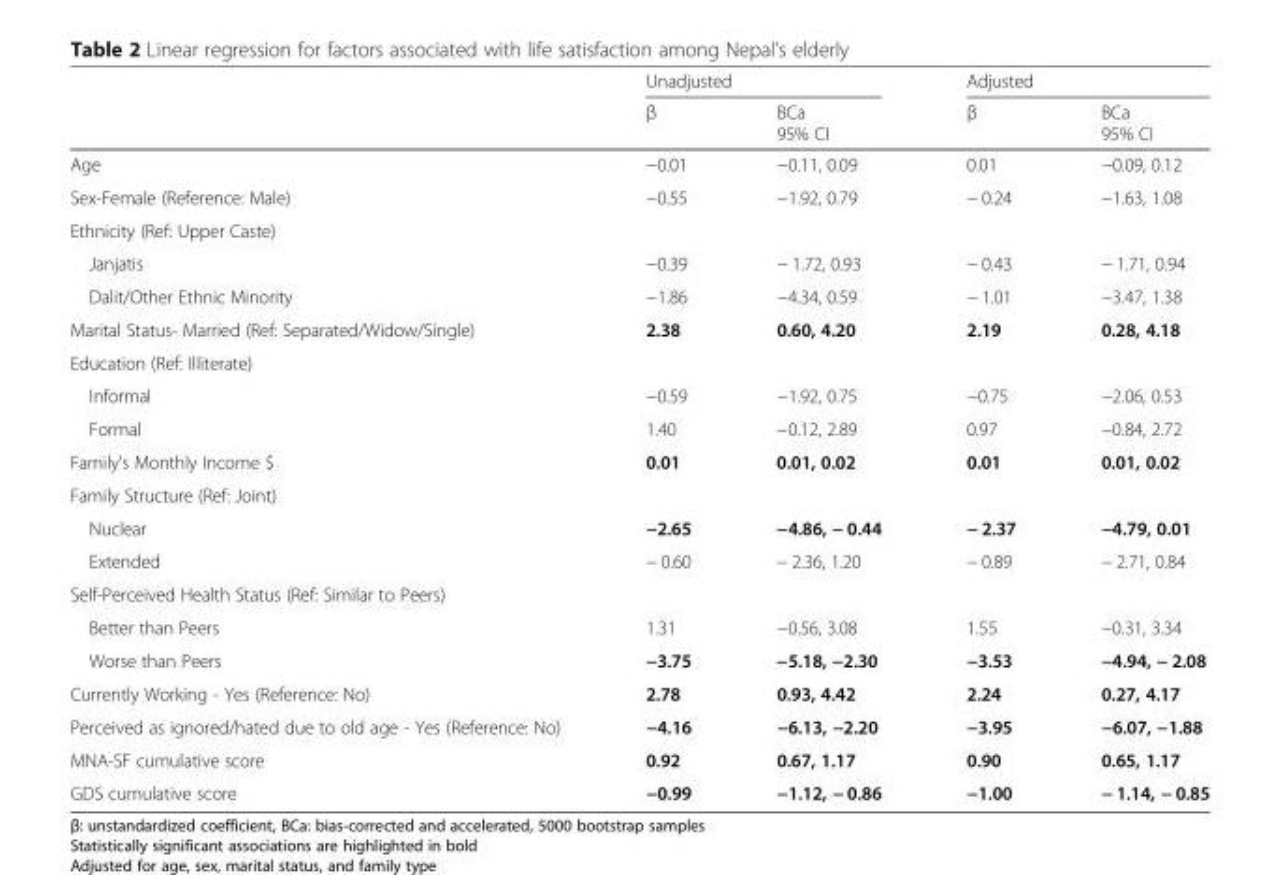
<table><thead><tr><td rowspan="2"></td><td colspan="2">Unadjusted</td><td colspan="2">Adjusted</td></tr><tr><td>β</td><td>BCa 95% CI</td><td>β</td><td>BCa 95% CI</td></tr></thead><tbody><tr><td>Age</td><td>−0.01</td><td>−0.11, 0.09</td><td>0.01</td><td>−0.09, 0.12</td></tr><tr><td>Sex-Female (Reference: Male)</td><td>−0.55</td><td>−1.92, 0.79</td><td>− 0.24</td><td>−1.63, 1.08</td></tr><tr><td colspan="5">Ethnicity (Ref: Upper Caste)</td></tr><tr><td>Janjatis</td><td>−0.39</td><td>− 1.72, 0.93</td><td>− 0.43</td><td>− 1.71, 0.94</td></tr><tr><td>Dalit/Other Ethnic Minority</td><td>−1.86</td><td>−4.34, 0.59</td><td>− 1.01</td><td>−3.47, 1.38</td></tr><tr><td>Marital Status- Married (Ref: Separated/Widow/Single)</td><td>2.38</td><td>0.60, 4.20</td><td>2.19</td><td>0.28, 4.18</td></tr><tr><td colspan="5">Education (Ref: Illiterate)</td></tr><tr><td>Informal</td><td>−0.59</td><td>−1.92, 0.75</td><td>−0.75</td><td>−2.06, 0.53</td></tr><tr><td>Formal</td><td>1.40</td><td>−0.12, 2.89</td><td>0.97</td><td>−0.84, 2.72</td></tr><tr><td>Family’s Monthly Income $</td><td>0.01</td><td>0.01, 0.02</td><td>0.01</td><td>0.01, 0.02</td></tr><tr><td colspan="5">Family Structure (Ref: Joint)</td></tr><tr><td>Nuclear</td><td>−2.65</td><td>−4.86, − 0.44</td><td>− 2.37</td><td>−4.79, 0.01</td></tr><tr><td>Extended</td><td>− 0.60</td><td>− 2.36, 1.20</td><td>− 0.89</td><td>− 2.71, 0.84</td></tr><tr><td colspan="5">Self-Perceived Health Status (Ref: Similar to Peers)</td></tr><tr><td>Better than Peers</td><td>1.31</td><td>−0.56, 3.08</td><td>1.55</td><td>−0.31, 3.34</td></tr><tr><td>Worse than Peers</td><td>−3.75</td><td>−5.18, −2.30</td><td>−3.53</td><td>−4.94, − 2.08</td></tr><tr><td>Currently Working - Yes (Reference: No)</td><td>2.78</td><td>0.93, 4.42</td><td>2.24</td><td>0.27, 4.17</td></tr><tr><td>Perceived as ignored/hated due to old age - Yes (Reference: No)</td><td>−4.16</td><td>−6.13, −2.20</td><td>−3.95</td><td>−6.07, −1.88</td></tr><tr><td>MNA-SF cumulative score</td><td>0.92</td><td>0.67, 1.17</td><td>0.90</td><td>0.65, 1.17</td></tr><tr><td>GDS cumulative score</td><td>−0.99</td><td>−1.12, − 0.86</td><td>−1.00</td><td>− 1.14, − 0.85</td></tr></tbody></table>